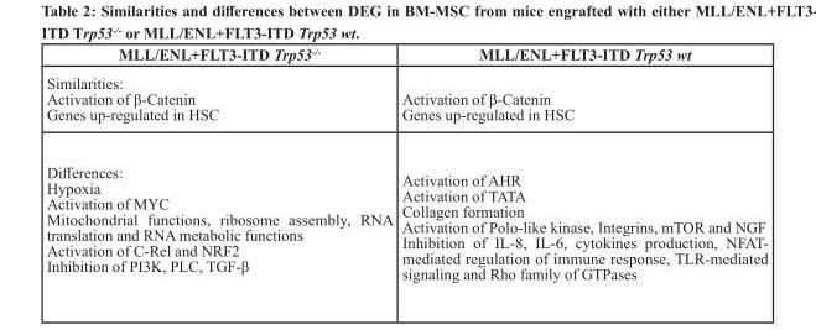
<table><thead><tr><td>MLL/ENL+FLT3-ITD Trp53<sup>-/-</sup></td><td>MLL/ENL+FLT3-ITD Trp53 wt</td></tr></thead><tbody><tr><td>Similarities: Activation of β-Catenin Genes up-regulated in HSC</td><td>Activation of β-Catenin Genes up-regulated in HSC</td></tr><tr><td>Differences: Hypoxia Activation of MYC Mitochondrial functions, ribosome assembly, RNA translation and RNA metabolic functions Activation of C-Rel and NRF2 Inhibition of PI3K, PLC, TGF-β</td><td>Activation of AHR Activation of TATA Collagen formation Activation of Polo-like kinase, Integrins, mTOR and NGF Inhibition of IL-8, IL-6, cytokines production, NFAT- mediated regulation of immune response, TLR-mediated signaling and Rho family of GTPases</td></tr></tbody></table>